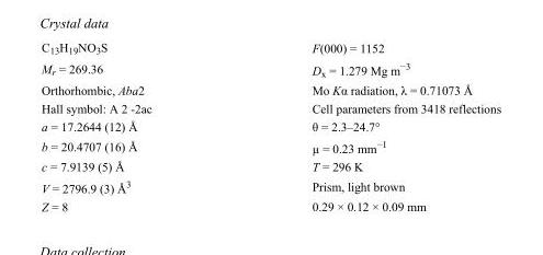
<table><tbody><tr><td>C<sub>13</sub>H<sub>19</sub>NO<sub>3</sub>S</td><td>F(000) = 1152</td></tr><tr><td>M<sub>r</sub> = 269.36</td><td>D<sub>x</sub> = 1.279 Mg m<sup>−3</sup></td></tr><tr><td>Orthorhombic, Aba2</td><td>Mo Kα radiation, λ = 0.71073 Å</td></tr><tr><td>Hall symbol: A 2 -2ac</td><td>Cell parameters from 3418 reflections</td></tr><tr><td>a = 17.2644 (12) Å</td><td>θ = 2.3–24.7°</td></tr><tr><td>b = 20.4707 (16) Å</td><td>µ = 0.23 mm<sup>−1</sup></td></tr><tr><td>c = 7.9139 (5) Å</td><td>T = 296 K</td></tr><tr><td>V = 2796.9 (3) Å<sup>3</sup></td><td>Prism, light brown</td></tr><tr><td>Z = 8</td><td>0.29 × 0.12 × 0.09 mm</td></tr></tbody></table>